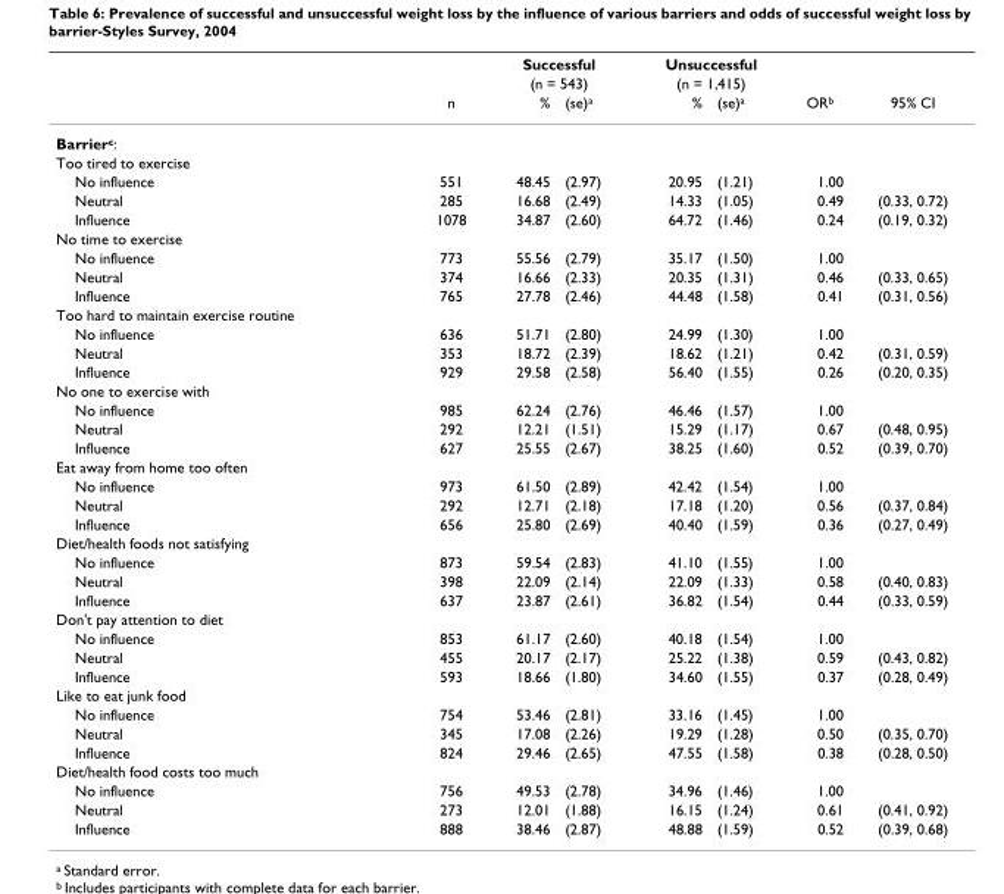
<table><thead><tr><td rowspan="3"></td><td rowspan="3">n</td><td rowspan="2" colspan="2">Successful (n = 543)</td><td rowspan="2" colspan="2">Unsuccessful (n = 1,415)</td><td rowspan="3">OR<sup>b</sup></td><td rowspan="3">95% CI</td></tr><tr></tr><tr><td>%</td><td>(se)<sup>a</sup></td><td>%</td><td>(se)<sup>a</sup></td></tr></thead><tbody><tr><td colspan="8">Barrier<sup>c</sup>:</td></tr><tr><td colspan="8">Too tired to exercise</td></tr><tr><td>No influence</td><td>551</td><td>48.45</td><td>(2.97)</td><td>20.95</td><td>(1.21)</td><td>1.00</td><td></td></tr><tr><td>Neutral</td><td>285</td><td>16.68</td><td>(2.49)</td><td>14.33</td><td>(1.05)</td><td>0.49</td><td>(0.33, 0.72)</td></tr><tr><td>Influence</td><td>1078</td><td>34.87</td><td>(2.60)</td><td>64.72</td><td>(1.46)</td><td>0.24</td><td>(0.19, 0.32)</td></tr><tr><td colspan="8">No time to exercise</td></tr><tr><td>No influence</td><td>773</td><td>55.56</td><td>(2.79)</td><td>35.17</td><td>(1.50)</td><td>1.00</td><td></td></tr><tr><td>Neutral</td><td>374</td><td>16.66</td><td>(2.33)</td><td>20.35</td><td>(1.31)</td><td>0.46</td><td>(0.33, 0.65)</td></tr><tr><td>Influence</td><td>765</td><td>27.78</td><td>(2.46)</td><td>44.48</td><td>(1.58)</td><td>0.41</td><td>(0.31, 0.56)</td></tr><tr><td colspan="8">Too hard to maintain exercise routine</td></tr><tr><td>No influence</td><td>636</td><td>51.71</td><td>(2.80)</td><td>24.99</td><td>(1.30)</td><td>1.00</td><td></td></tr><tr><td>Neutral</td><td>353</td><td>18.72</td><td>(2.39)</td><td>18.62</td><td>(1.21)</td><td>0.42</td><td>(0.31, 0.59)</td></tr><tr><td>Influence</td><td>929</td><td>29.58</td><td>(2.58)</td><td>56.40</td><td>(1.55)</td><td>0.26</td><td>(0.20, 0.35)</td></tr><tr><td colspan="8">No one to exercise with</td></tr><tr><td>No influence</td><td>985</td><td>62.24</td><td>(2.76)</td><td>46.46</td><td>(1.57)</td><td>1.00</td><td></td></tr><tr><td>Neutral</td><td>292</td><td>12.21</td><td>(1.51)</td><td>15.29</td><td>(1.17)</td><td>0.67</td><td>(0.48, 0.95)</td></tr><tr><td>Influence</td><td>627</td><td>25.55</td><td>(2.67)</td><td>38.25</td><td>(1.60)</td><td>0.52</td><td>(0.39, 0.70)</td></tr><tr><td colspan="8">Eat away from home too often</td></tr><tr><td>No influence</td><td>973</td><td>61.50</td><td>(2.89)</td><td>42.42</td><td>(1.54)</td><td>1.00</td><td></td></tr><tr><td>Neutral</td><td>292</td><td>12.71</td><td>(2.18)</td><td>17.18</td><td>(1.20)</td><td>0.56</td><td>(0.37, 0.84)</td></tr><tr><td>Influence</td><td>656</td><td>25.80</td><td>(2.69)</td><td>40.40</td><td>(1.59)</td><td>0.36</td><td>(0.27, 0.49)</td></tr><tr><td colspan="8">Diet/health foods not satisfying</td></tr><tr><td>No influence</td><td>873</td><td>59.54</td><td>(2.83)</td><td>41.10</td><td>(1.55)</td><td>1.00</td><td></td></tr><tr><td>Neutral</td><td>398</td><td>22.09</td><td>(2.14)</td><td>22.09</td><td>(1.33)</td><td>0.58</td><td>(0.40, 0.83)</td></tr><tr><td>Influence</td><td>637</td><td>23.87</td><td>(2.61)</td><td>36.82</td><td>(1.54)</td><td>0.44</td><td>(0.33, 0.59)</td></tr><tr><td colspan="8">Don&#x27;t pay attention to diet</td></tr><tr><td>No influence</td><td>853</td><td>61.17</td><td>(2.60)</td><td>40.18</td><td>(1.54)</td><td>1.00</td><td></td></tr><tr><td>Neutral</td><td>455</td><td>20.17</td><td>(2.17)</td><td>25.22</td><td>(1.38)</td><td>0.59</td><td>(0.43, 0.82)</td></tr><tr><td>Influence</td><td>593</td><td>18.66</td><td>(1.80)</td><td>34.60</td><td>(1.55)</td><td>0.37</td><td>(0.28, 0.49)</td></tr><tr><td colspan="8">Like to eat junk food</td></tr><tr><td>No influence</td><td>754</td><td>53.46</td><td>(2.81)</td><td>33.16</td><td>(1.45)</td><td>1.00</td><td></td></tr><tr><td>Neutral</td><td>345</td><td>17.08</td><td>(2.26)</td><td>19.29</td><td>(1.28)</td><td>0.50</td><td>(0.35, 0.70)</td></tr><tr><td>Influence</td><td>824</td><td>29.46</td><td>(2.65)</td><td>47.55</td><td>(1.58)</td><td>0.38</td><td>(0.28, 0.50)</td></tr><tr><td colspan="8">Diet/health food costs too much</td></tr><tr><td>No influence</td><td>756</td><td>49.53</td><td>(2.78)</td><td>34.96</td><td>(1.46)</td><td>1.00</td><td></td></tr><tr><td>Neutral</td><td>273</td><td>12.01</td><td>(1.88)</td><td>16.15</td><td>(1.24)</td><td>0.61</td><td>(0.41, 0.92)</td></tr><tr><td>Influence</td><td>888</td><td>38.46</td><td>(2.87)</td><td>48.88</td><td>(1.59)</td><td>0.52</td><td>(0.39, 0.68)</td></tr></tbody></table>